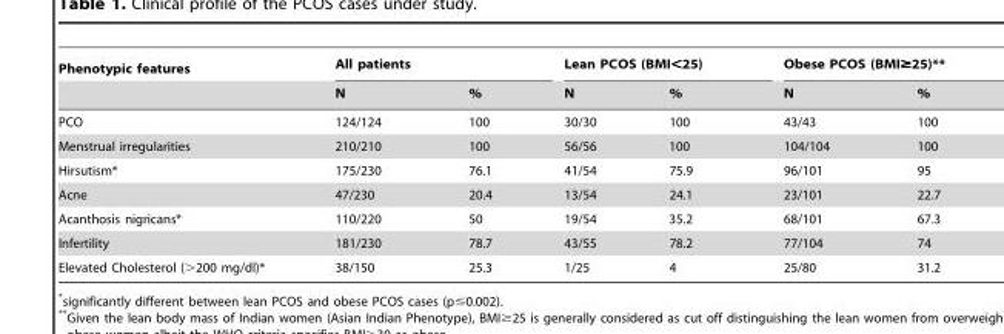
<table><thead><tr><td rowspan="2">Phenotypic features</td><td colspan="2">All patients</td><td colspan="2">Lean PCOS (BMI&lt;25)</td><td colspan="2">Obese PCOS (BMI≥25)**</td></tr><tr><td>N</td><td>%</td><td>N</td><td>%</td><td>N</td><td>%</td></tr></thead><tbody><tr><td>PCO</td><td>124/124</td><td>100</td><td>30/30</td><td>100</td><td>43/43</td><td>100</td></tr><tr><td>Menstrual irregularities</td><td>210/210</td><td>100</td><td>56/56</td><td>100</td><td>104/104</td><td>100</td></tr><tr><td>Hirsutism*</td><td>175/230</td><td>76.1</td><td>41/54</td><td>75.9</td><td>96/101</td><td>95</td></tr><tr><td>Acne</td><td>47/230</td><td>20.4</td><td>13/54</td><td>24.1</td><td>23/101</td><td>22.7</td></tr><tr><td>Acanthosis nigricans*</td><td>110/220</td><td>50</td><td>19/54</td><td>35.2</td><td>68/101</td><td>67.3</td></tr><tr><td>Infertility</td><td>181/230</td><td>78.7</td><td>43/55</td><td>78.2</td><td>77/104</td><td>74</td></tr><tr><td>Elevated Cholesterol (&gt;200 mg/dl)*</td><td>38/150</td><td>25.3</td><td>1/25</td><td>4</td><td>25/80</td><td>31.2</td></tr></tbody></table>